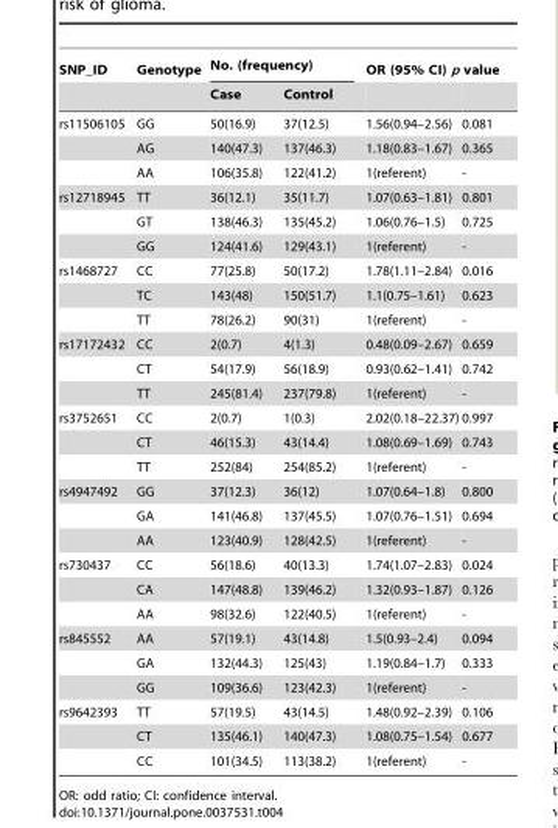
<table><thead><tr><td rowspan="2">SNP_ID</td><td rowspan="2">Genotype</td><td colspan="2">No. (frequency)</td><td colspan="2">OR (95% CI) p value</td></tr><tr><td>Case</td><td>Control</td><td></td><td></td></tr></thead><tbody><tr><td rowspan="3">rs11506105</td><td>GG</td><td>50(16.9)</td><td>37(12.5)</td><td>1.56(0.94–2.56)</td><td>0.081</td></tr><tr><td>AG</td><td>140(47.3)</td><td>137(46.3)</td><td>1.18(0.83–1.67)</td><td>0.365</td></tr><tr><td>AA</td><td>106(35.8)</td><td>122(41.2)</td><td>1(referent)</td><td>-</td></tr><tr><td rowspan="3">rs12718945</td><td>TT</td><td>36(12.1)</td><td>35(11.7)</td><td>1.07(0.63–1.81)</td><td>0.801</td></tr><tr><td>GT</td><td>138(46.3)</td><td>135(45.2)</td><td>1.06(0.76–1.5)</td><td>0.725</td></tr><tr><td>GG</td><td>124(41.6)</td><td>129(43.1)</td><td>1(referent)</td><td>-</td></tr><tr><td rowspan="3">rs1468727</td><td>CC</td><td>77(25.8)</td><td>50(17.2)</td><td>1.78(1.11–2.84)</td><td>0.016</td></tr><tr><td>TC</td><td>143(48)</td><td>150(51.7)</td><td>1.1(0.75–1.61)</td><td>0.623</td></tr><tr><td>TT</td><td>78(26.2)</td><td>90(31)</td><td>1(referent)</td><td>-</td></tr><tr><td rowspan="3">rs17172432</td><td>CC</td><td>2(0.7)</td><td>4(1.3)</td><td>0.48(0.09–2.67)</td><td>0.659</td></tr><tr><td>CT</td><td>54(17.9)</td><td>56(18.9)</td><td>0.93(0.62–1.41)</td><td>0.742</td></tr><tr><td>TT</td><td>245(81.4)</td><td>237(79.8)</td><td>1(referent)</td><td>-</td></tr><tr><td rowspan="3">rs3752651</td><td>CC</td><td>2(0.7)</td><td>1(0.3)</td><td>2.02(0.18–22.37)</td><td>0.997</td></tr><tr><td>CT</td><td>46(15.3)</td><td>43(14.4)</td><td>1.08(0.69–1.69)</td><td>0.743</td></tr><tr><td>TT</td><td>252(84)</td><td>254(85.2)</td><td>1(referent)</td><td>-</td></tr><tr><td rowspan="3">rs4947492</td><td>GG</td><td>37(12.3)</td><td>36(12)</td><td>1.07(0.64–1.8)</td><td>0.800</td></tr><tr><td>GA</td><td>141(46.8)</td><td>137(45.5)</td><td>1.07(0.76–1.51)</td><td>0.694</td></tr><tr><td>AA</td><td>123(40.9)</td><td>128(42.5)</td><td>1(referent)</td><td>-</td></tr><tr><td rowspan="3">rs730437</td><td>CC</td><td>56(18.6)</td><td>40(13.3)</td><td>1.74(1.07–2.83)</td><td>0.024</td></tr><tr><td>CA</td><td>147(48.8)</td><td>139(46.2)</td><td>1.32(0.93–1.87)</td><td>0.126</td></tr><tr><td>AA</td><td>98(32.6)</td><td>122(40.5)</td><td>1(referent)</td><td>-</td></tr><tr><td rowspan="3">rs845552</td><td>AA</td><td>57(19.1)</td><td>43(14.8)</td><td>1.5(0.93–2.4)</td><td>0.094</td></tr><tr><td>GA</td><td>132(44.3)</td><td>125(43)</td><td>1.19(0.84–1.7)</td><td>0.333</td></tr><tr><td>GG</td><td>109(36.6)</td><td>123(42.3)</td><td>1(referent)</td><td>-</td></tr><tr><td rowspan="3">rs9642393</td><td>TT</td><td>57(19.5)</td><td>43(14.5)</td><td>1.48(0.92–2.39)</td><td>0.106</td></tr><tr><td>CT</td><td>135(46.1)</td><td>140(47.3)</td><td>1.08(0.75–1.54)</td><td>0.677</td></tr><tr><td>CC</td><td>101(34.5)</td><td>113(38.2)</td><td>1(referent)</td><td>-</td></tr></tbody></table>